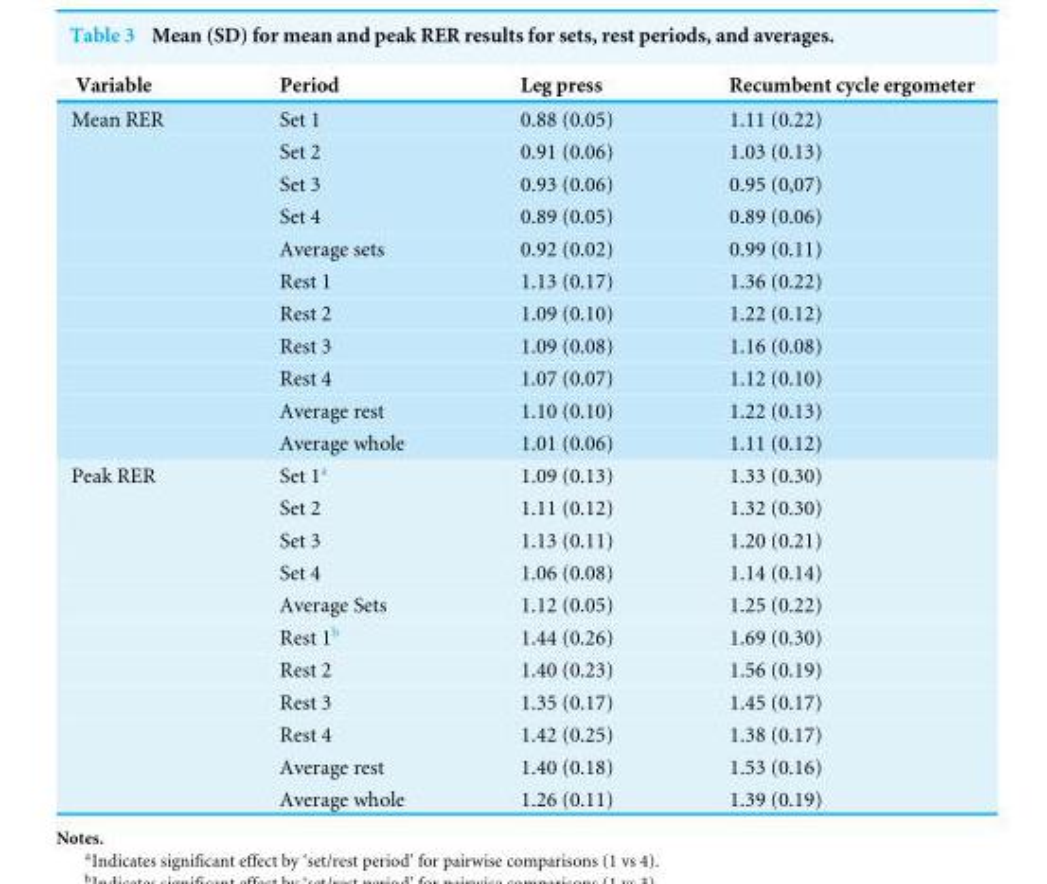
<table><thead><tr><td>Variable</td><td>Period</td><td>Leg press</td><td>Recumbent cycle ergometer</td></tr></thead><tbody><tr><td rowspan="11">Mean RER</td><td>Set 1</td><td>0.88 (0.05)</td><td>1.11 (0.22)</td></tr><tr><td>Set 2</td><td>0.91 (0.06)</td><td>1.03 (0.13)</td></tr><tr><td>Set 3</td><td>0.93 (0.06)</td><td>0.95 (0,07)</td></tr><tr><td>Set 4</td><td>0.89 (0.05)</td><td>0.89 (0.06)</td></tr><tr><td>Average sets</td><td>0.92 (0.02)</td><td>0.99 (0.11)</td></tr><tr><td>Rest 1</td><td>1.13 (0.17)</td><td>1.36 (0.22)</td></tr><tr><td>Rest 2</td><td>1.09 (0.10)</td><td>1.22 (0.12)</td></tr><tr><td>Rest 3</td><td>1.09 (0.08)</td><td>1.16 (0.08)</td></tr><tr><td>Rest 4</td><td>1.07 (0.07)</td><td>1.12 (0.10)</td></tr><tr><td>Average rest</td><td>1.10 (0.10)</td><td>1.22 (0.13)</td></tr><tr><td>Average whole</td><td>1.01 (0.06)</td><td>1.11 (0.12)</td></tr><tr><td rowspan="11">Peak RER</td><td>Set 1<sup>a</sup></td><td>1.09 (0.13)</td><td>1.33 (0.30)</td></tr><tr><td>Set 2</td><td>1.11 (0.12)</td><td>1.32 (0.30)</td></tr><tr><td>Set 3</td><td>1.13 (0.11)</td><td>1.20 (0.21)</td></tr><tr><td>Set 4</td><td>1.06 (0.08)</td><td>1.14 (0.14)</td></tr><tr><td>Average Sets</td><td>1.12 (0.05)</td><td>1.25 (0.22)</td></tr><tr><td>Rest 1<sup>b</sup></td><td>1.44 (0.26)</td><td>1.69 (0.30)</td></tr><tr><td>Rest 2</td><td>1.40 (0.23)</td><td>1.56 (0.19)</td></tr><tr><td>Rest 3</td><td>1.35 (0.17)</td><td>1.45 (0.17)</td></tr><tr><td>Rest 4</td><td>1.42 (0.25)</td><td>1.38 (0.17)</td></tr><tr><td>Average rest</td><td>1.40 (0.18)</td><td>1.53 (0.16)</td></tr><tr><td>Average whole</td><td>1.26 (0.11)</td><td>1.39 (0.19)</td></tr></tbody></table>